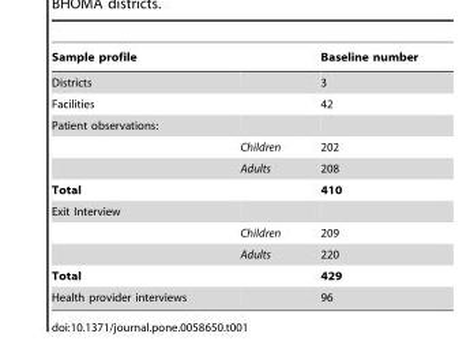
<table><thead><tr><td>Sample profile</td><td></td><td>Baseline number</td></tr></thead><tbody><tr><td>Districts</td><td></td><td>3</td></tr><tr><td>Facilities</td><td></td><td>42</td></tr><tr><td colspan="3">Patient observations:</td></tr><tr><td></td><td>Children</td><td>202</td></tr><tr><td></td><td>Adults</td><td>208</td></tr><tr><td>Total</td><td></td><td>410</td></tr><tr><td colspan="3">Exit Interview</td></tr><tr><td></td><td>Children</td><td>209</td></tr><tr><td></td><td>Adults</td><td>220</td></tr><tr><td>Total</td><td></td><td>429</td></tr><tr><td>Health provider interviews</td><td></td><td>96</td></tr></tbody></table>